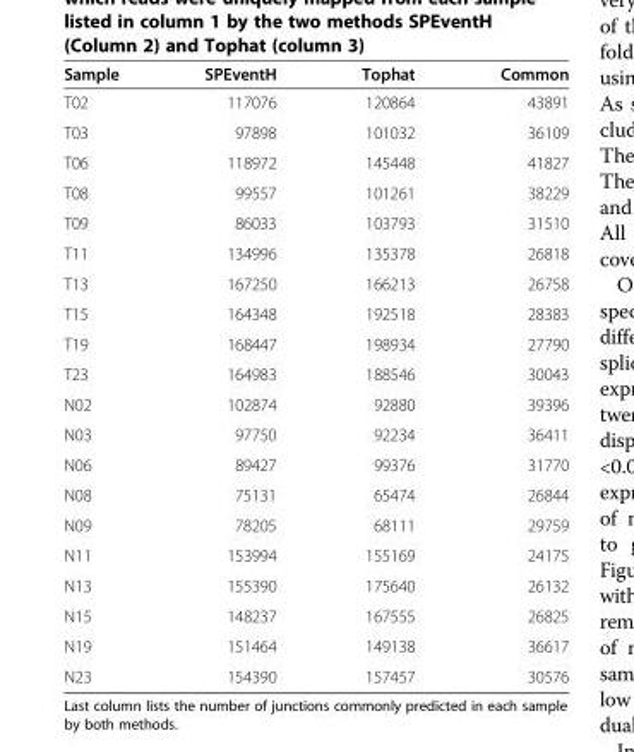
<table><thead><tr><td>Sample</td><td>SPEventH</td><td>Tophat</td><td>Common</td></tr></thead><tbody><tr><td>T02</td><td>117076</td><td>120864</td><td>43891</td></tr><tr><td>T03</td><td>97898</td><td>101032</td><td>36109</td></tr><tr><td>T06</td><td>118972</td><td>145448</td><td>41827</td></tr><tr><td>T08</td><td>99557</td><td>101261</td><td>38229</td></tr><tr><td>T09</td><td>86033</td><td>103793</td><td>31510</td></tr><tr><td>T11</td><td>134996</td><td>135378</td><td>26818</td></tr><tr><td>T13</td><td>167250</td><td>166213</td><td>26758</td></tr><tr><td>T15</td><td>164348</td><td>192518</td><td>28383</td></tr><tr><td>T19</td><td>168447</td><td>198934</td><td>27790</td></tr><tr><td>T23</td><td>164983</td><td>188546</td><td>30043</td></tr><tr><td>N02</td><td>102874</td><td>92880</td><td>39396</td></tr><tr><td>N03</td><td>97750</td><td>92234</td><td>36411</td></tr><tr><td>N06</td><td>89427</td><td>99376</td><td>31770</td></tr><tr><td>N08</td><td>75131</td><td>65474</td><td>26844</td></tr><tr><td>N09</td><td>78205</td><td>68111</td><td>29759</td></tr><tr><td>N11</td><td>153994</td><td>155169</td><td>24175</td></tr><tr><td>N13</td><td>155390</td><td>175640</td><td>26132</td></tr><tr><td>N15</td><td>148237</td><td>167555</td><td>26825</td></tr><tr><td>N19</td><td>151464</td><td>149138</td><td>36617</td></tr><tr><td>N23</td><td>154390</td><td>157457</td><td>30576</td></tr></tbody></table>